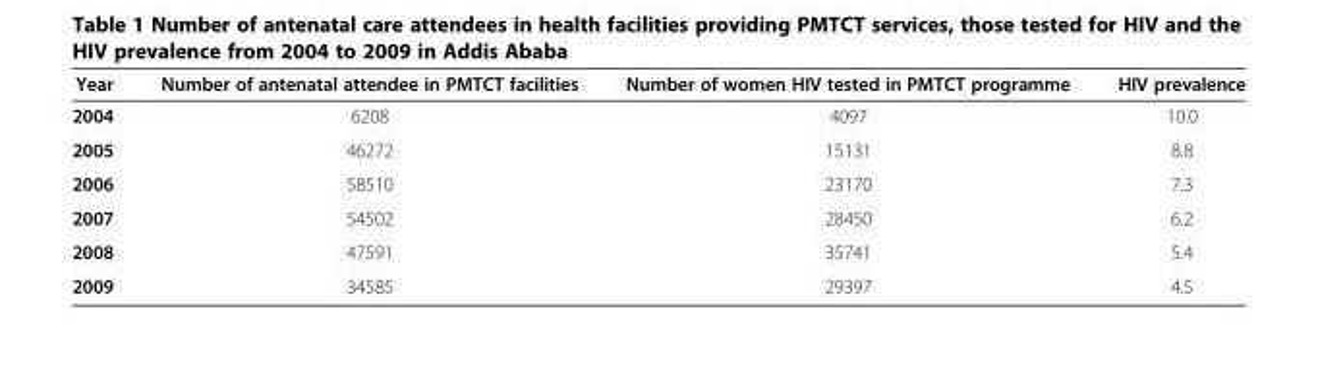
<table><thead><tr><td>Year</td><td>Number of antenatal attendee in PMTCT facilities</td><td>Number of women HIV tested in PMTCT programme</td><td>HIV prevalence</td></tr></thead><tbody><tr><td>2004</td><td>6208</td><td>4097</td><td>10.0</td></tr><tr><td>2005</td><td>46272</td><td>15131</td><td>8.8</td></tr><tr><td>2006</td><td>58510</td><td>23170</td><td>7.3</td></tr><tr><td>2007</td><td>54502</td><td>28450</td><td>6.2</td></tr><tr><td>2008</td><td>47591</td><td>35741</td><td>5.4</td></tr><tr><td>2009</td><td>34585</td><td>29397</td><td>4.5</td></tr></tbody></table>